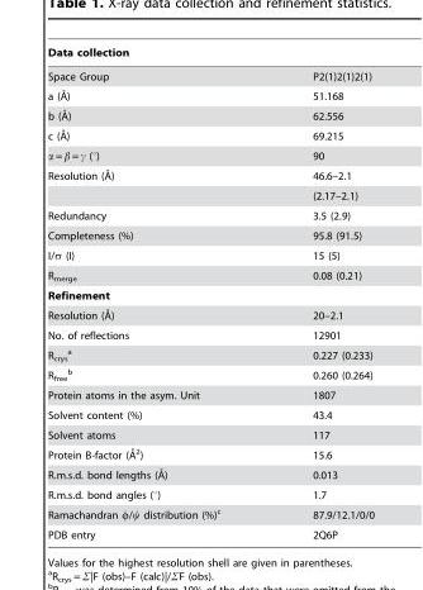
<table><thead><tr><td>Data collection</td><td></td></tr></thead><tbody><tr><td>Space Group</td><td>P2(1)2(1)2(1)</td></tr><tr><td>a (A˚)</td><td>51.168</td></tr><tr><td>b (A˚)</td><td>62.556</td></tr><tr><td>c (A˚)</td><td>69.215</td></tr><tr><td>α = β = γ (°)</td><td>90</td></tr><tr><td rowspan="2">Resolution (A˚)</td><td>46.6–2.1</td></tr><tr><td>(2.17–2.1)</td></tr><tr><td>Redundancy</td><td>3.5 (2.9)</td></tr><tr><td>Completeness (%)</td><td>95.8 (91.5)</td></tr><tr><td>I/σ (I)</td><td>15 (5)</td></tr><tr><td>R<sub>merge</sub></td><td>0.08 (0.21)</td></tr><tr><td colspan="2">Refinement</td></tr><tr><td>Resolution (A˚)</td><td>20–2.1</td></tr><tr><td>No. of reflections</td><td>12901</td></tr><tr><td>R<sub>crys</sub> a</td><td>0.227 (0.233)</td></tr><tr><td>R<sub>free</sub> b</td><td>0.260 (0.264)</td></tr><tr><td>Protein atoms in the asym. Unit</td><td>1807</td></tr><tr><td>Solvent content (%)</td><td>43.4</td></tr><tr><td>Solvent atoms</td><td>117</td></tr><tr><td>Protein B-factor (A˚2)</td><td>15.6</td></tr><tr><td>R.m.s.d. bond lengths (A˚)</td><td>0.013</td></tr><tr><td>R.m.s.d. bond angles (°)</td><td>1.7</td></tr><tr><td>Ramachandran φ/ψ distribution (%)<sup>c</sup></td><td>87.9/12.1/0/0</td></tr><tr><td>PDB entry</td><td>2Q6P</td></tr></tbody></table>